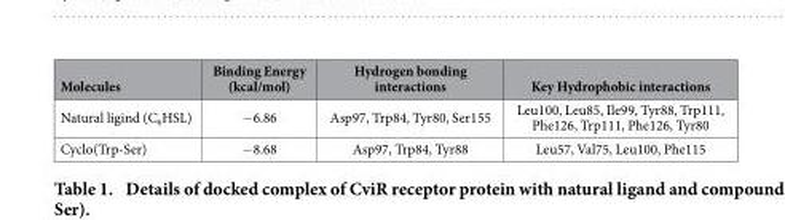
<table><thead><tr><td>Molecules</td><td>Binding Energy (kcal/mol)</td><td>Hydrogen bonding interactions</td><td>Key Hydrophobic interactions</td></tr></thead><tbody><tr><td>Natural ligind (C<sub>6</sub>HSL)</td><td>− 6.86</td><td>Asp97, Trp84, Tyr80, Ser155</td><td>Leu100, Leu85, Ile99, Tyr88, Trp111, Phe126, Trp111, Phe126, Tyr80</td></tr><tr><td>Cyclo(Trp-Ser)</td><td>− 8.68</td><td>Asp97, Trp84, Tyr88</td><td>Leu57, Val75, Leu100, Phe115</td></tr></tbody></table>